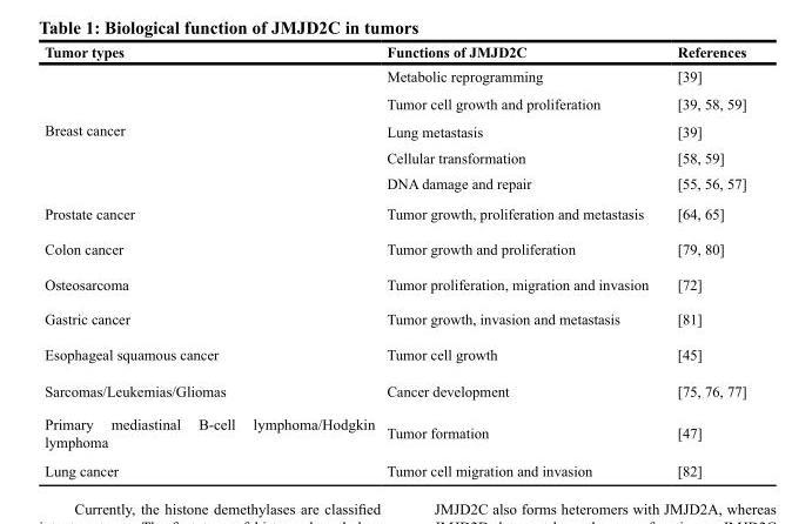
<table><thead><tr><td>Tumor types</td><td>Functions of JMJD2C</td><td>References</td></tr></thead><tbody><tr><td rowspan="5">Breast cancer</td><td>Metabolic reprogramming</td><td>[39]</td></tr><tr><td>Tumor cell growth and proliferation</td><td>[39, 58, 59]</td></tr><tr><td>Lung metastasis</td><td>[39]</td></tr><tr><td>Cellular transformation</td><td>[58, 59]</td></tr><tr><td>DNA damage and repair</td><td>[55, 56, 57]</td></tr><tr><td>Prostate cancer</td><td>Tumor growth, proliferation and metastasis</td><td>[64, 65]</td></tr><tr><td>Colon cancer</td><td>Tumor growth and proliferation</td><td>[79, 80]</td></tr><tr><td>Osteosarcoma</td><td>Tumor proliferation, migration and invasion</td><td>[72]</td></tr><tr><td>Gastric cancer</td><td>Tumor growth, invasion and metastasis</td><td>[81]</td></tr><tr><td>Esophageal squamous cancer</td><td>Tumor cell growth</td><td>[45]</td></tr><tr><td>Sarcomas/Leukemias/Gliomas</td><td>Cancer development</td><td>[75, 76, 77]</td></tr><tr><td>Primary mediastinal B-cell lymphoma/Hodgkin lymphoma</td><td>Tumor formation</td><td>[47]</td></tr><tr><td>Lung cancer</td><td>Tumor cell migration and invasion</td><td>[82]</td></tr></tbody></table>